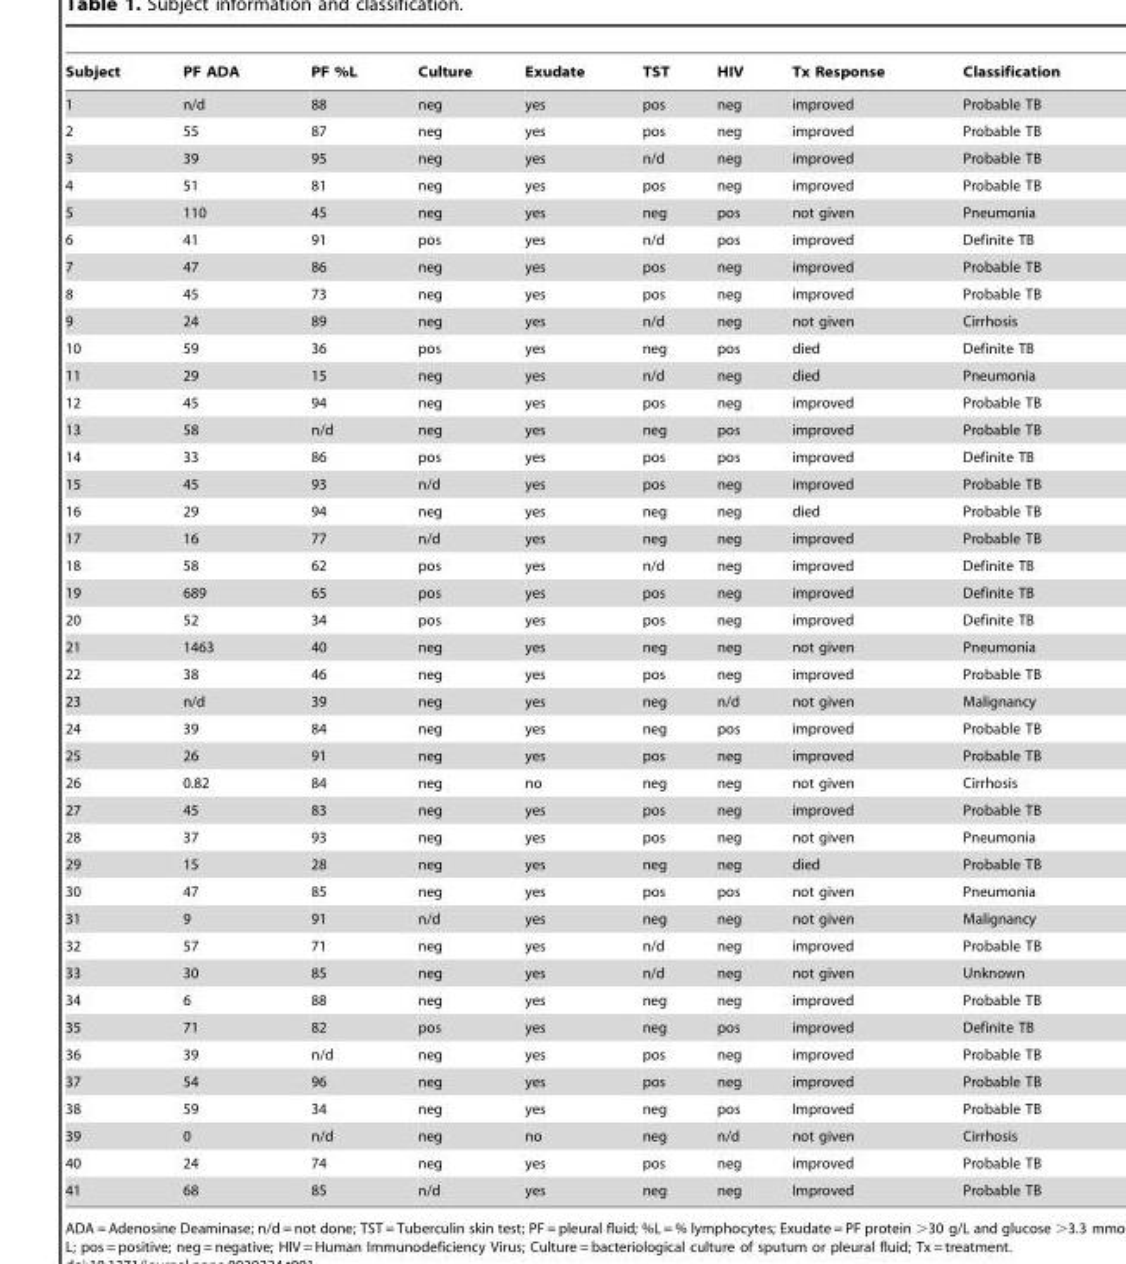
<table><thead><tr><td>Subject</td><td>PF ADA</td><td>PF %L</td><td>Culture</td><td>Exudate</td><td>TST</td><td>HIV</td><td>Tx Response</td><td>Classification</td></tr></thead><tbody><tr><td>1</td><td>n/d</td><td>88</td><td>neg</td><td>yes</td><td>pos</td><td>neg</td><td>improved</td><td>Probable TB</td></tr><tr><td>2</td><td>55</td><td>87</td><td>neg</td><td>yes</td><td>pos</td><td>neg</td><td>improved</td><td>Probable TB</td></tr><tr><td>3</td><td>39</td><td>95</td><td>neg</td><td>yes</td><td>n/d</td><td>neg</td><td>improved</td><td>Probable TB</td></tr><tr><td>4</td><td>51</td><td>81</td><td>neg</td><td>yes</td><td>pos</td><td>neg</td><td>improved</td><td>Probable TB</td></tr><tr><td>5</td><td>110</td><td>45</td><td>neg</td><td>yes</td><td>neg</td><td>pos</td><td>not given</td><td>Pneumonia</td></tr><tr><td>6</td><td>41</td><td>91</td><td>pos</td><td>yes</td><td>n/d</td><td>pos</td><td>improved</td><td>Definite TB</td></tr><tr><td>7</td><td>47</td><td>86</td><td>neg</td><td>yes</td><td>pos</td><td>neg</td><td>improved</td><td>Probable TB</td></tr><tr><td>8</td><td>45</td><td>73</td><td>neg</td><td>yes</td><td>pos</td><td>neg</td><td>improved</td><td>Probable TB</td></tr><tr><td>9</td><td>24</td><td>89</td><td>neg</td><td>yes</td><td>n/d</td><td>neg</td><td>not given</td><td>Cirrhosis</td></tr><tr><td>10</td><td>59</td><td>36</td><td>pos</td><td>yes</td><td>neg</td><td>pos</td><td>died</td><td>Definite TB</td></tr><tr><td>11</td><td>29</td><td>15</td><td>neg</td><td>yes</td><td>n/d</td><td>neg</td><td>died</td><td>Pneumonia</td></tr><tr><td>12</td><td>45</td><td>94</td><td>neg</td><td>yes</td><td>pos</td><td>neg</td><td>improved</td><td>Probable TB</td></tr><tr><td>13</td><td>58</td><td>n/d</td><td>neg</td><td>yes</td><td>neg</td><td>pos</td><td>improved</td><td>Probable TB</td></tr><tr><td>14</td><td>33</td><td>86</td><td>pos</td><td>yes</td><td>pos</td><td>pos</td><td>improved</td><td>Definite TB</td></tr><tr><td>15</td><td>45</td><td>93</td><td>n/d</td><td>yes</td><td>pos</td><td>neg</td><td>improved</td><td>Probable TB</td></tr><tr><td>16</td><td>29</td><td>94</td><td>neg</td><td>yes</td><td>neg</td><td>neg</td><td>died</td><td>Probable TB</td></tr><tr><td>17</td><td>16</td><td>77</td><td>n/d</td><td>yes</td><td>neg</td><td>neg</td><td>improved</td><td>Probable TB</td></tr><tr><td>18</td><td>58</td><td>62</td><td>pos</td><td>yes</td><td>n/d</td><td>neg</td><td>improved</td><td>Definite TB</td></tr><tr><td>19</td><td>689</td><td>65</td><td>pos</td><td>yes</td><td>pos</td><td>neg</td><td>improved</td><td>Definite TB</td></tr><tr><td>20</td><td>52</td><td>34</td><td>pos</td><td>yes</td><td>pos</td><td>neg</td><td>improved</td><td>Definite TB</td></tr><tr><td>21</td><td>1463</td><td>40</td><td>neg</td><td>yes</td><td>neg</td><td>neg</td><td>not given</td><td>Pneumonia</td></tr><tr><td>22</td><td>38</td><td>46</td><td>neg</td><td>yes</td><td>pos</td><td>neg</td><td>improved</td><td>Probable TB</td></tr><tr><td>23</td><td>n/d</td><td>39</td><td>neg</td><td>yes</td><td>neg</td><td>n/d</td><td>not given</td><td>Malignancy</td></tr><tr><td>24</td><td>39</td><td>84</td><td>neg</td><td>yes</td><td>neg</td><td>pos</td><td>improved</td><td>Probable TB</td></tr><tr><td>25</td><td>26</td><td>91</td><td>neg</td><td>yes</td><td>pos</td><td>neg</td><td>improved</td><td>Probable TB</td></tr><tr><td>26</td><td>0.82</td><td>84</td><td>neg</td><td>no</td><td>neg</td><td>neg</td><td>not given</td><td>Cirrhosis</td></tr><tr><td>27</td><td>45</td><td>83</td><td>neg</td><td>yes</td><td>pos</td><td>neg</td><td>improved</td><td>Probable TB</td></tr><tr><td>28</td><td>37</td><td>93</td><td>neg</td><td>yes</td><td>pos</td><td>neg</td><td>not given</td><td>Pneumonia</td></tr><tr><td>29</td><td>15</td><td>28</td><td>neg</td><td>yes</td><td>neg</td><td>neg</td><td>died</td><td>Probable TB</td></tr><tr><td>30</td><td>47</td><td>85</td><td>neg</td><td>yes</td><td>pos</td><td>pos</td><td>not given</td><td>Pneumonia</td></tr><tr><td>31</td><td>9</td><td>91</td><td>n/d</td><td>yes</td><td>neg</td><td>neg</td><td>not given</td><td>Malignancy</td></tr><tr><td>32</td><td>57</td><td>71</td><td>neg</td><td>yes</td><td>n/d</td><td>neg</td><td>improved</td><td>Probable TB</td></tr><tr><td>33</td><td>30</td><td>85</td><td>neg</td><td>yes</td><td>n/d</td><td>neg</td><td>not given</td><td>Unknown</td></tr><tr><td>34</td><td>6</td><td>88</td><td>neg</td><td>yes</td><td>neg</td><td>neg</td><td>improved</td><td>Probable TB</td></tr><tr><td>35</td><td>71</td><td>82</td><td>pos</td><td>yes</td><td>neg</td><td>pos</td><td>improved</td><td>Definite TB</td></tr><tr><td>36</td><td>39</td><td>n/d</td><td>neg</td><td>yes</td><td>pos</td><td>neg</td><td>improved</td><td>Probable TB</td></tr><tr><td>37</td><td>54</td><td>96</td><td>neg</td><td>yes</td><td>pos</td><td>neg</td><td>improved</td><td>Probable TB</td></tr><tr><td>38</td><td>59</td><td>34</td><td>neg</td><td>yes</td><td>neg</td><td>pos</td><td>Improved</td><td>Probable TB</td></tr><tr><td>39</td><td>0</td><td>n/d</td><td>neg</td><td>no</td><td>neg</td><td>n/d</td><td>not given</td><td>Cirrhosis</td></tr><tr><td>40</td><td>24</td><td>74</td><td>neg</td><td>yes</td><td>pos</td><td>neg</td><td>improved</td><td>Probable TB</td></tr><tr><td>41</td><td>68</td><td>85</td><td>n/d</td><td>yes</td><td>neg</td><td>neg</td><td>Improved</td><td>Probable TB</td></tr></tbody></table>